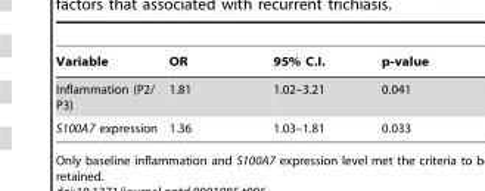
<table><thead><tr><td>Variable</td><td>OR</td><td>95% C.I.</td><td>p-value</td></tr></thead><tbody><tr><td>Inflammation (P2/ P3)</td><td>1.81</td><td>1.02–3.21</td><td>0.041</td></tr><tr><td>S100A7 expression</td><td>1.36</td><td>1.03–1.81</td><td>0.033</td></tr></tbody></table>